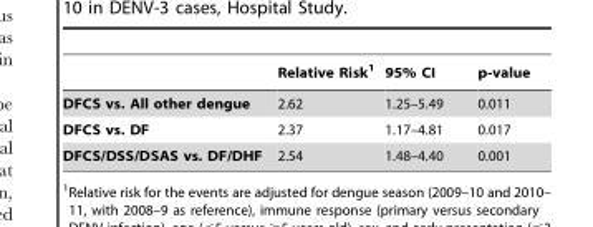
<table><thead><tr><td></td><td>Relative Risk<sup>1</sup></td><td>95% CI</td><td>p-value</td></tr></thead><tbody><tr><td>DFCS vs. All other dengue</td><td>2.62</td><td>1.25–5.49</td><td>0.011</td></tr><tr><td>DFCS vs. DF</td><td>2.37</td><td>1.17–4.81</td><td>0.017</td></tr><tr><td>DFCS/DSS/DSAS vs. DF/DHF</td><td>2.54</td><td>1.48–4.40</td><td>0.001</td></tr></tbody></table>